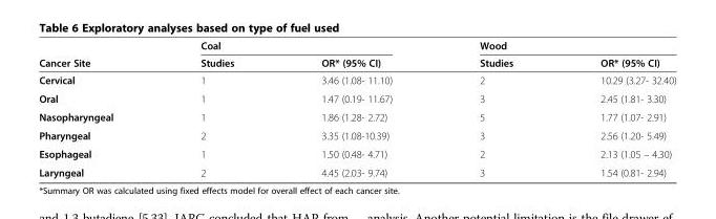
<table><thead><tr><td rowspan="2">Cancer Site</td><td colspan="2">Coal</td><td colspan="2">Wood</td></tr><tr><td>Studies</td><td>OR* (95% CI)</td><td>Studies</td><td>OR* (95% CI)</td></tr></thead><tbody><tr><td>Cervical</td><td>1</td><td>3.46 (1.08- 11.10)</td><td>2</td><td>10.29 (3.27- 32.40)</td></tr><tr><td>Oral</td><td>1</td><td>1.47 (0.19- 11.67)</td><td>3</td><td>2.45 (1.81- 3.30)</td></tr><tr><td>Nasopharyngeal</td><td>1</td><td>1.86 (1.28- 2.72)</td><td>5</td><td>1.77 (1.07- 2.91)</td></tr><tr><td>Pharyngeal</td><td>2</td><td>3.35 (1.08-10.39)</td><td>3</td><td>2.56 (1.20- 5.49)</td></tr><tr><td>Esophageal</td><td>1</td><td>1.50 (0.48- 4.71)</td><td>2</td><td>2.13 (1.05 – 4.30)</td></tr><tr><td>Laryngeal</td><td>2</td><td>4.45 (2.03- 9.74)</td><td>3</td><td>1.54 (0.81- 2.94)</td></tr></tbody></table>